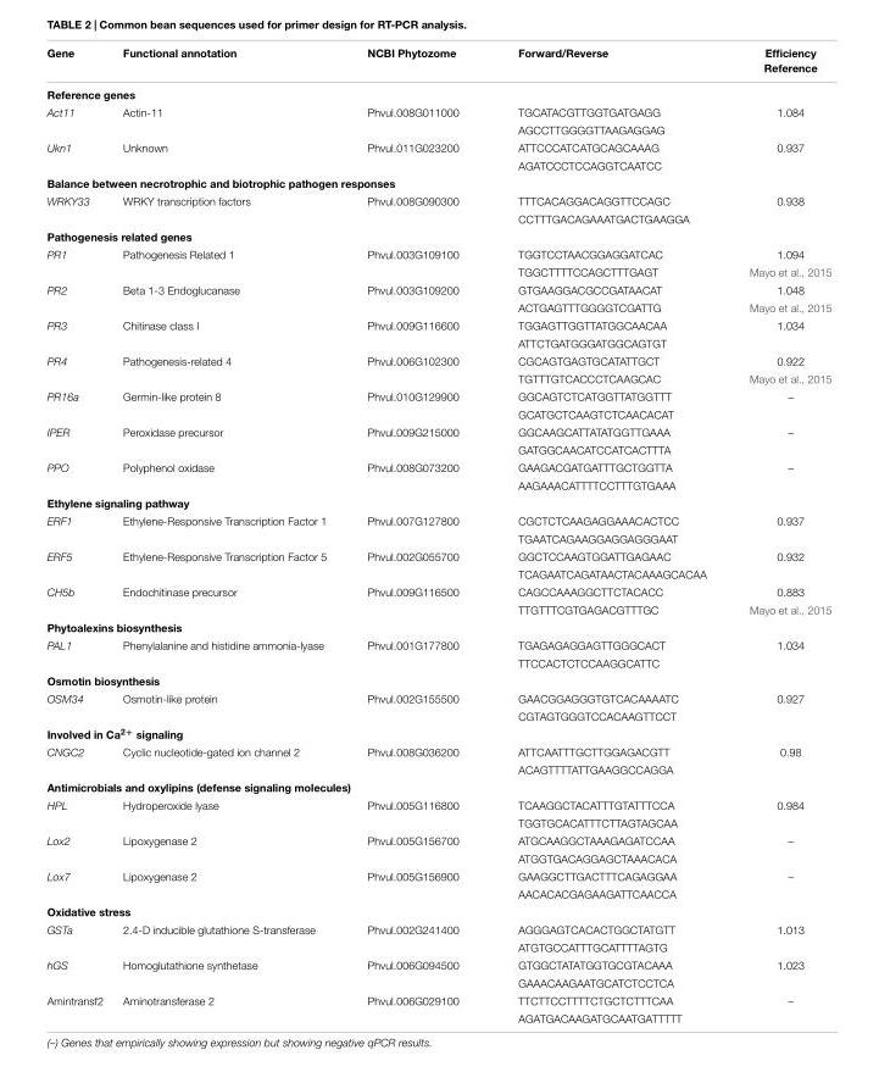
<table><thead><tr><td>Gene</td><td>Functional annotation</td><td>NCBI Phytozome</td><td>Forward/Reverse</td><td>Efficiency Reference</td></tr></thead><tbody><tr><td colspan="5">Reference genes</td></tr><tr><td rowspan="2">Act11</td><td>Actin-11</td><td>Phvul.008G011000</td><td>TGCATACGTTGGTGATGAGG</td><td>1.084</td></tr><tr><td></td><td></td><td>AGCCTTGGGGTTAAGAGGAG</td><td></td></tr><tr><td rowspan="2">Ukn1</td><td>Unknown</td><td>Phvul.011G023200</td><td>ATTCCCATCATGCAGCAAAG</td><td>0.937</td></tr><tr><td></td><td></td><td>AGATCCCTCCAGGTCAATCC</td><td></td></tr><tr><td colspan="5">Balance between necrotrophic and biotrophic pathogen responses</td></tr><tr><td rowspan="2">WRKY33</td><td>WRKY transcription factors</td><td>Phvul.008G090300</td><td>TTTCACAGGACAGGTTCCAGC</td><td>0.938</td></tr><tr><td></td><td></td><td>CCTTTGACAGAAATGACTGAAGGA</td><td></td></tr><tr><td colspan="5">Pathogenesis related genes</td></tr><tr><td rowspan="2">PR1</td><td>Pathogenesis Related 1</td><td>Phvul.003G109100</td><td>TGGTCCTAACGGAGGATCAC</td><td>1.094</td></tr><tr><td></td><td></td><td>TGGCTTTTCCAGCTTTGAGT</td><td>Mayo et al., 2015</td></tr><tr><td rowspan="2">PR2</td><td>Beta 1-3 Endoglucanase</td><td>Phvul.003G109200</td><td>GTGAAGGACGCCGATAACAT</td><td>1.048</td></tr><tr><td></td><td></td><td>ACTGAGTTTGGGGTCGATTG</td><td>Mayo et al., 2015</td></tr><tr><td rowspan="2">PR3</td><td>Chitinase class I</td><td>Phvul.009G116600</td><td>TGGAGTTGGTTATGGCAACAA</td><td>1.034</td></tr><tr><td></td><td></td><td>ATTCTGATGGGATGGCAGTGT</td><td></td></tr><tr><td rowspan="2">PR4</td><td>Pathogenesis-related 4</td><td>Phvul.006G102300</td><td>CGCAGTGAGTGCATATTGCT</td><td>0.922</td></tr><tr><td></td><td></td><td>TGTTTGTCACCCTCAAGCAC</td><td>Mayo et al., 2015</td></tr><tr><td rowspan="2">PR16a</td><td>Germin-like protein 8</td><td>Phvul.010G129900</td><td>GGCAGTCTCATGGTTATGGTTT</td><td>–</td></tr><tr><td></td><td></td><td>GCATGCTCAAGTCTCAACACAT</td><td></td></tr><tr><td rowspan="2">IPER</td><td>Peroxidase precursor</td><td>Phvul.009G215000</td><td>GGCAAGCATTATATGGTTGAAA</td><td>–</td></tr><tr><td></td><td></td><td>GATGGCAACATCCATCACTTTA</td><td></td></tr><tr><td rowspan="2">PPO</td><td>Polyphenol oxidase</td><td>Phvul.008G073200</td><td>GAAGACGATGATTTGCTGGTTA</td><td>–</td></tr><tr><td></td><td></td><td>AAGAAACATTTTCCTTTGTGAAA</td><td></td></tr><tr><td colspan="5">Ethylene signaling pathway</td></tr><tr><td rowspan="2">ERF1</td><td>Ethylene-Responsive Transcription Factor 1</td><td>Phvul.007G127800</td><td>CGCTCTCAAGAGGAAACACTCC</td><td>0.937</td></tr><tr><td></td><td></td><td>TGAATCAGAAGGAGGAGGGAAT</td><td></td></tr><tr><td rowspan="2">ERF5</td><td>Ethylene-Responsive Transcription Factor 5</td><td>Phvul.002G055700</td><td>GGCTCCAAGTGGATTGAGAAC</td><td>0.932</td></tr><tr><td></td><td></td><td>TCAGAATCAGATAACTACAAAGCACAA</td><td></td></tr><tr><td rowspan="2">CH5b</td><td>Endochitinase precursor</td><td>Phvul.009G116500</td><td>CAGCCAAAGGCTTCTACACC</td><td>0.883</td></tr><tr><td></td><td></td><td>TTGTTTCGTGAGACGTTTGC</td><td>Mayo et al., 2015</td></tr><tr><td colspan="5">Phytoalexins biosynthesis</td></tr><tr><td rowspan="2">PAL1</td><td>Phenylalanine and histidine ammonia-lyase</td><td>Phvul.001G177800</td><td>TGAGAGAGGAGTTGGGCACT</td><td>1.034</td></tr><tr><td></td><td></td><td>TTCCACTCTCCAAGGCATTC</td><td></td></tr><tr><td colspan="5">Osmotin biosynthesis</td></tr><tr><td rowspan="2">OSM34</td><td>Osmotin-like protein</td><td>Phvul.002G155500</td><td>GAACGGAGGGTGTCACAAAATC</td><td>0.927</td></tr><tr><td></td><td></td><td>CGTAGTGGGTCCACAAGTTCCT</td><td></td></tr><tr><td colspan="5">Involved in Ca<sup>2+</sup> signaling</td></tr><tr><td rowspan="2">CNGC2</td><td>Cyclic nucleotide-gated ion channel 2</td><td>Phvul.008G036200</td><td>ATTCAATTTGCTTGGAGACGTT</td><td>0.98</td></tr><tr><td></td><td></td><td>ACAGTTTTATTGAAGGCCAGGA</td><td></td></tr><tr><td colspan="5">Antimicrobials and oxylipins (defense signaling molecules)</td></tr><tr><td rowspan="2">HPL</td><td>Hydroperoxide lyase</td><td>Phvul.005G116800</td><td>TCAAGGCTACATTTGTATTTCCA</td><td>0.984</td></tr><tr><td></td><td></td><td>TGGTGCACATTTCTTAGTAGCAA</td><td></td></tr><tr><td rowspan="2">Lox2</td><td>Lipoxygenase 2</td><td>Phvul.005G156700</td><td>ATGCAAGGCTAAAGAGATCCAA</td><td>–</td></tr><tr><td></td><td></td><td>ATGGTGACAGGAGCTAAACACA</td><td></td></tr><tr><td rowspan="2">Lox7</td><td>Lipoxygenase 2</td><td>Phvul.005G156900</td><td>GAAGGCTTGACTTTCAGAGGAA</td><td>–</td></tr><tr><td></td><td></td><td>AACACACGAGAAGATTCAACCA</td><td></td></tr><tr><td colspan="5">Oxidative stress</td></tr><tr><td rowspan="2">GSTa</td><td>2.4-D inducible glutathione S-transferase</td><td>Phvul.002G241400</td><td>AGGGAGTCACACTGGCTATGTT</td><td>1.013</td></tr><tr><td></td><td></td><td>ATGTGCCATTTGCATTTTAGTG</td><td></td></tr><tr><td rowspan="2">hGS</td><td>Homoglutathione synthetase</td><td>Phvul.006G094500</td><td>GTGGCTATATGGTGCGTACAAA</td><td>1.023</td></tr><tr><td></td><td></td><td>GAAACAAGAATGCATCTCCTCA</td><td></td></tr><tr><td rowspan="2">Amintransf2</td><td>Aminotransferase 2</td><td>Phvul.006G029100</td><td>TTCTTCCTTTTCTGCTCTTTCAA</td><td>–</td></tr><tr><td></td><td></td><td>AGATGACAAGATGCAATGATTTTT</td><td></td></tr></tbody></table>